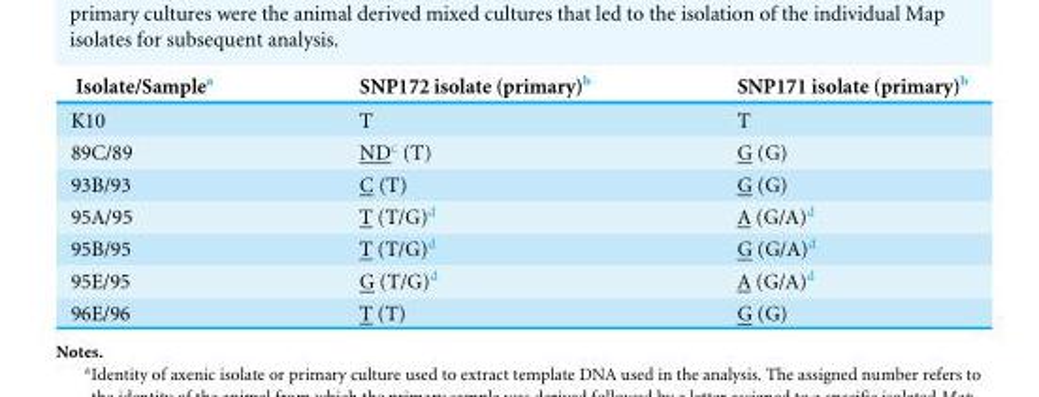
<table><thead><tr><td>Isolate/Sample<sup>a</sup></td><td>SNP172 isolate (primary)<sup>b</sup></td><td>SNP171 isolate (primary)<sup>b</sup></td></tr></thead><tbody><tr><td>K10</td><td>T</td><td>T</td></tr><tr><td>89C/89</td><td>ND<sup>c</sup> (T)</td><td>G (G)</td></tr><tr><td>93B/93</td><td>C (T)</td><td>G (G)</td></tr><tr><td>95A/95</td><td>T (T/G)<sup>d</sup></td><td>A (G/A)<sup>d</sup></td></tr><tr><td>95B/95</td><td>T (T/G)<sup>d</sup></td><td>G (G/A)<sup>d</sup></td></tr><tr><td>95E/95</td><td>G (T/G)<sup>d</sup></td><td>A (G/A)<sup>d</sup></td></tr><tr><td>96E/96</td><td>T (T)</td><td>G (G)</td></tr></tbody></table>